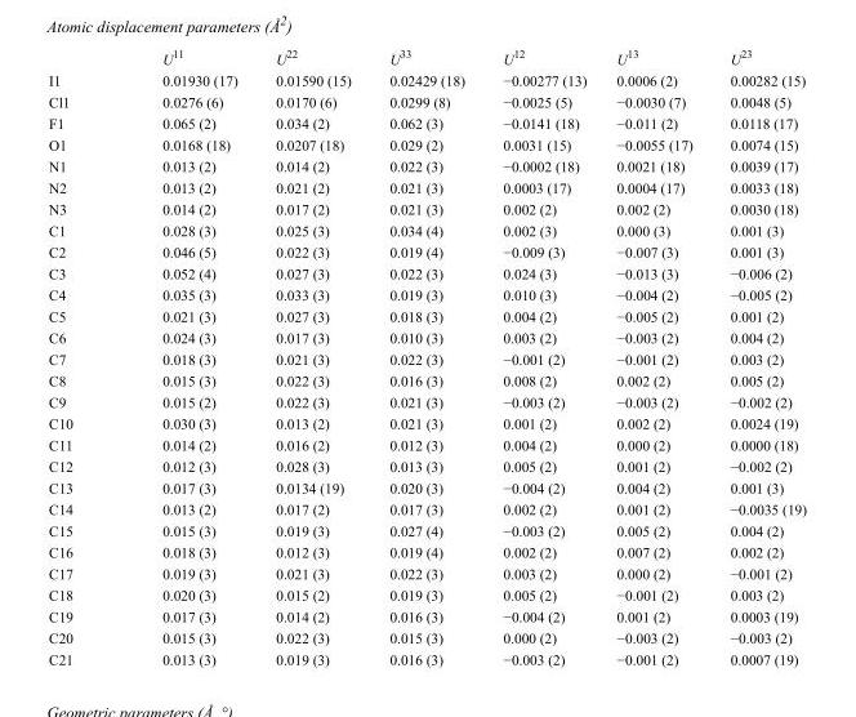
<table><thead><tr><td></td><td>U<sup>11</sup></td><td>U<sup>22</sup></td><td>U<sup>33</sup></td><td>U<sup>12</sup></td><td>U<sup>13</sup></td><td>U<sup>23</sup></td></tr></thead><tbody><tr><td>I1</td><td>0.01930 (17)</td><td>0.01590 (15)</td><td>0.02429 (18)</td><td>−0.00277 (13)</td><td>0.0006 (2)</td><td>0.00282 (15)</td></tr><tr><td>Cl1</td><td>0.0276 (6)</td><td>0.0170 (6)</td><td>0.0299 (8)</td><td>−0.0025 (5)</td><td>−0.0030 (7)</td><td>0.0048 (5)</td></tr><tr><td>F1</td><td>0.065 (2)</td><td>0.034 (2)</td><td>0.062 (3)</td><td>−0.0141 (18)</td><td>−0.011 (2)</td><td>0.0118 (17)</td></tr><tr><td>O1</td><td>0.0168 (18)</td><td>0.0207 (18)</td><td>0.029 (2)</td><td>0.0031 (15)</td><td>−0.0055 (17)</td><td>0.0074 (15)</td></tr><tr><td>N1</td><td>0.013 (2)</td><td>0.014 (2)</td><td>0.022 (3)</td><td>−0.0002 (18)</td><td>0.0021 (18)</td><td>0.0039 (17)</td></tr><tr><td>N2</td><td>0.013 (2)</td><td>0.021 (2)</td><td>0.021 (3)</td><td>0.0003 (17)</td><td>0.0004 (17)</td><td>0.0033 (18)</td></tr><tr><td>N3</td><td>0.014 (2)</td><td>0.017 (2)</td><td>0.021 (3)</td><td>0.002 (2)</td><td>0.002 (2)</td><td>0.0030 (18)</td></tr><tr><td>C1</td><td>0.028 (3)</td><td>0.025 (3)</td><td>0.034 (4)</td><td>0.002 (3)</td><td>0.000 (3)</td><td>0.001 (3)</td></tr><tr><td>C2</td><td>0.046 (5)</td><td>0.022 (3)</td><td>0.019 (4)</td><td>−0.009 (3)</td><td>−0.007 (3)</td><td>0.001 (3)</td></tr><tr><td>C3</td><td>0.052 (4)</td><td>0.027 (3)</td><td>0.022 (3)</td><td>0.024 (3)</td><td>−0.013 (3)</td><td>−0.006 (2)</td></tr><tr><td>C4</td><td>0.035 (3)</td><td>0.033 (3)</td><td>0.019 (3)</td><td>0.010 (3)</td><td>−0.004 (2)</td><td>−0.005 (2)</td></tr><tr><td>C5</td><td>0.021 (3)</td><td>0.027 (3)</td><td>0.018 (3)</td><td>0.004 (2)</td><td>−0.005 (2)</td><td>0.001 (2)</td></tr><tr><td>C6</td><td>0.024 (3)</td><td>0.017 (3)</td><td>0.010 (3)</td><td>0.003 (2)</td><td>−0.003 (2)</td><td>0.004 (2)</td></tr><tr><td>C7</td><td>0.018 (3)</td><td>0.021 (3)</td><td>0.022 (3)</td><td>−0.001 (2)</td><td>−0.001 (2)</td><td>0.003 (2)</td></tr><tr><td>C8</td><td>0.015 (3)</td><td>0.022 (3)</td><td>0.016 (3)</td><td>0.008 (2)</td><td>0.002 (2)</td><td>0.005 (2)</td></tr><tr><td>C9</td><td>0.015 (2)</td><td>0.022 (3)</td><td>0.021 (3)</td><td>−0.003 (2)</td><td>−0.003 (2)</td><td>−0.002 (2)</td></tr><tr><td>C10</td><td>0.030 (3)</td><td>0.013 (2)</td><td>0.021 (3)</td><td>0.001 (2)</td><td>0.002 (2)</td><td>0.0024 (19)</td></tr><tr><td>C11</td><td>0.014 (2)</td><td>0.016 (2)</td><td>0.012 (3)</td><td>0.004 (2)</td><td>0.000 (2)</td><td>0.0000 (18)</td></tr><tr><td>C12</td><td>0.012 (3)</td><td>0.028 (3)</td><td>0.013 (3)</td><td>0.005 (2)</td><td>0.001 (2)</td><td>−0.002 (2)</td></tr><tr><td>C13</td><td>0.017 (3)</td><td>0.0134 (19)</td><td>0.020 (3)</td><td>−0.004 (2)</td><td>0.004 (2)</td><td>0.001 (3)</td></tr><tr><td>C14</td><td>0.013 (2)</td><td>0.017 (2)</td><td>0.017 (3)</td><td>0.002 (2)</td><td>0.001 (2)</td><td>−0.0035 (19)</td></tr><tr><td>C15</td><td>0.015 (3)</td><td>0.019 (3)</td><td>0.027 (4)</td><td>−0.003 (2)</td><td>0.005 (2)</td><td>0.004 (2)</td></tr><tr><td>C16</td><td>0.018 (3)</td><td>0.012 (3)</td><td>0.019 (4)</td><td>0.002 (2)</td><td>0.007 (2)</td><td>0.002 (2)</td></tr><tr><td>C17</td><td>0.019 (3)</td><td>0.021 (3)</td><td>0.022 (3)</td><td>0.003 (2)</td><td>0.000 (2)</td><td>−0.001 (2)</td></tr><tr><td>C18</td><td>0.020 (3)</td><td>0.015 (2)</td><td>0.019 (3)</td><td>0.005 (2)</td><td>−0.001 (2)</td><td>0.003 (2)</td></tr><tr><td>C19</td><td>0.017 (3)</td><td>0.014 (2)</td><td>0.016 (3)</td><td>−0.004 (2)</td><td>0.001 (2)</td><td>0.0003 (19)</td></tr><tr><td>C20</td><td>0.015 (3)</td><td>0.022 (3)</td><td>0.015 (3)</td><td>0.000 (2)</td><td>−0.003 (2)</td><td>−0.003 (2)</td></tr><tr><td>C21</td><td>0.013 (3)</td><td>0.019 (3)</td><td>0.016 (3)</td><td>−0.003 (2)</td><td>−0.001 (2)</td><td>0.0007 (19)</td></tr></tbody></table>